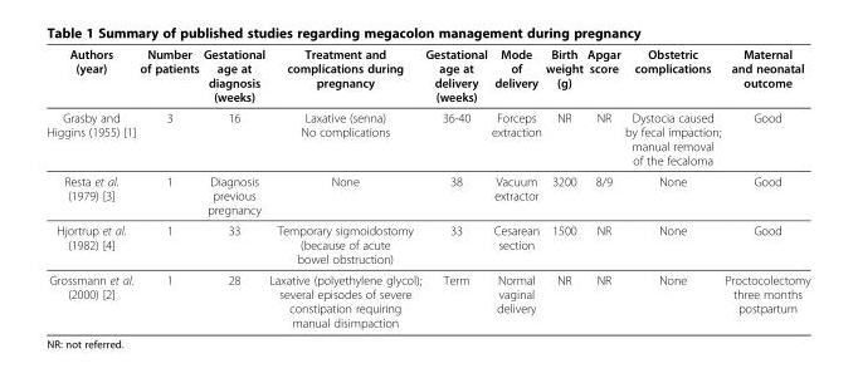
<table><thead><tr><td>Authors (year)</td><td>Number of patients</td><td>Gestational age at diagnosis (weeks)</td><td>Treatment and complications during pregnancy</td><td>Gestational age at delivery (weeks)</td><td>Mode of delivery</td><td>Birth weight (g)</td><td>Apgar score</td><td>Obstetric complications</td><td>Maternal and neonatal outcome</td></tr></thead><tbody><tr><td>Grasby and Higgins (1955) [1]</td><td>3</td><td>16</td><td>Laxative (senna) No complications</td><td>36-40</td><td>Forceps extraction</td><td>NR</td><td>NR</td><td>Dystocia caused by fecal impaction; manual removal of the fecaloma</td><td>Good</td></tr><tr><td>Resta et al. (1979) [3]</td><td>1</td><td>Diagnosis previous pregnancy</td><td>None</td><td>38</td><td>Vacuum extractor</td><td>3200</td><td>8/9</td><td>None</td><td>Good</td></tr><tr><td>Hjortrup et al. (1982) [4]</td><td>1</td><td>33</td><td>Temporary sigmoidostomy (because of acute bowel obstruction)</td><td>33</td><td>Cesarean section</td><td>1500</td><td>NR</td><td>None</td><td>Good</td></tr><tr><td>Grossmann et al. (2000) [2]</td><td>1</td><td>28</td><td>Laxative (polyethylene glycol); several episodes of severe constipation requiring manual disimpaction</td><td>Term</td><td>Normal vaginal delivery</td><td>NR</td><td>NR</td><td>None</td><td>Proctocolectomy three months postpartum</td></tr></tbody></table>